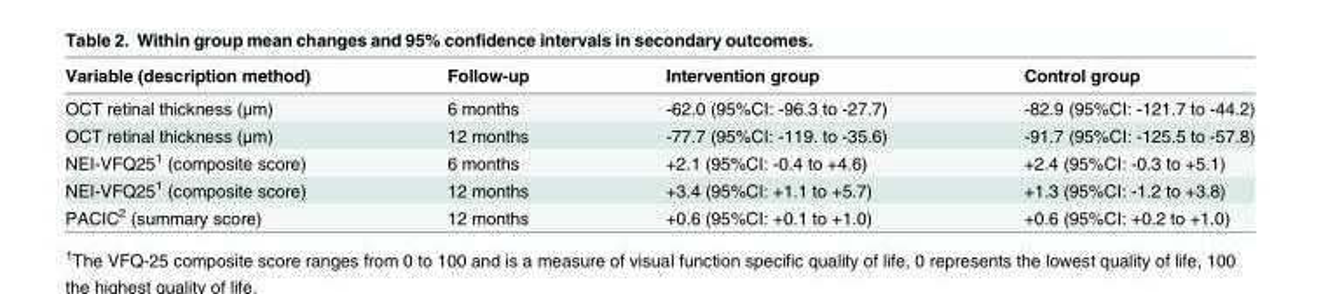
<table><thead><tr><td>Variable (description method)</td><td>Follow-up</td><td>Intervention group</td><td>Control group</td></tr></thead><tbody><tr><td>OCT retinal thickness (μm)</td><td>6 months</td><td>-62.0 (95%CI: -96.3 to -27.7)</td><td>-82.9 (95%CI: -121.7 to -44.2)</td></tr><tr><td>OCT retinal thickness (μm)</td><td>12 months</td><td>-77.7 (95%CI: -119. to -35.6)</td><td>-91.7 (95%CI: -125.5 to -57.8)</td></tr><tr><td>NEI-VFQ25<sup>1</sup> (composite score)</td><td>6 months</td><td>+2.1 (95%CI: -0.4 to +4.6)</td><td>+2.4 (95%CI: -0.3 to +5.1)</td></tr><tr><td>NEI-VFQ25<sup>1</sup> (composite score)</td><td>12 months</td><td>+3.4 (95%CI: +1.1 to +5.7)</td><td>+1.3 (95%CI: -1.2 to +3.8)</td></tr><tr><td>PACIC<sup>2</sup> (summary score)</td><td>12 months</td><td>+0.6 (95%CI: +0.1 to +1.0)</td><td>+0.6 (95%CI: +0.2 to +1.0)</td></tr></tbody></table>